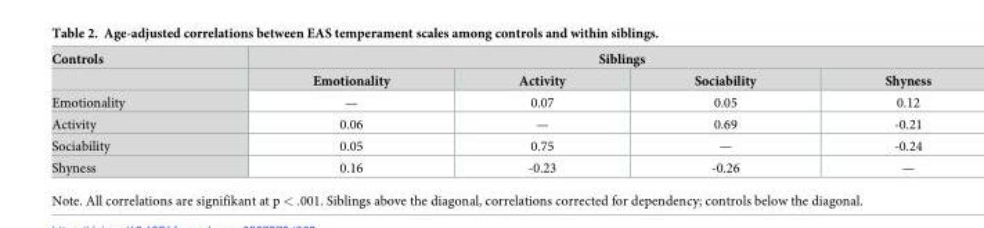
<table><thead><tr><td rowspan="2">Controls</td><td colspan="4">Siblings</td></tr><tr><td>Emotionality</td><td>Activity</td><td>Sociability</td><td>Shyness</td></tr></thead><tbody><tr><td>Emotionality</td><td>—</td><td>0.07</td><td>0.05</td><td>0.12</td></tr><tr><td>Activity</td><td>0.06</td><td>—</td><td>0.69</td><td>-0.21</td></tr><tr><td>Sociability</td><td>0.05</td><td>0.75</td><td>—</td><td>-0.24</td></tr><tr><td>Shyness</td><td>0.16</td><td>-0.23</td><td>-0.26</td><td>—</td></tr></tbody></table>